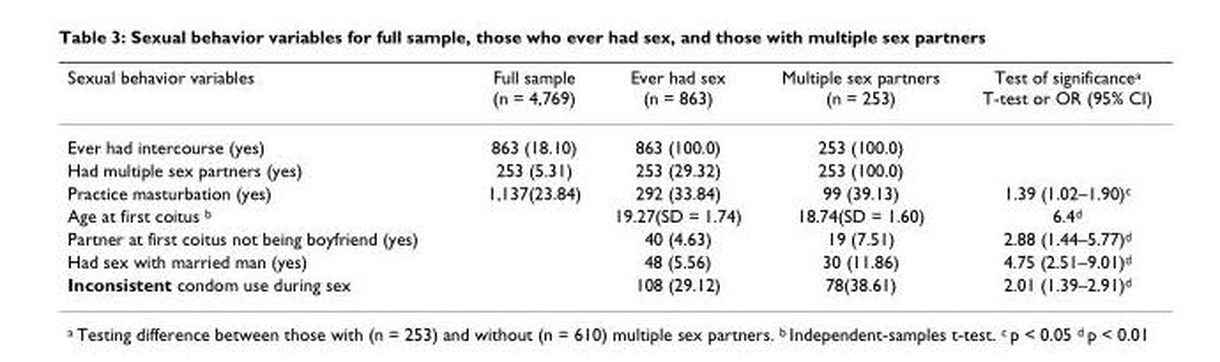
<table><thead><tr><td>Sexual behavior variables</td><td>Full sample (n = 4,769)</td><td>Ever had sex (n = 863)</td><td>Multiple sex partners (n = 253)</td><td>Test of significance<sup>a</sup> T-test or OR (95% CI)</td></tr></thead><tbody><tr><td>Ever had intercourse (yes)</td><td>863 (18.10)</td><td>863 (100.0)</td><td>253 (100.0)</td><td></td></tr><tr><td>Had multiple sex partners (yes)</td><td>253 (5.31)</td><td>253 (29.32)</td><td>253 (100.0)</td><td></td></tr><tr><td>Practice masturbation (yes)</td><td>1,137(23.84)</td><td>292 (33.84)</td><td>99 (39.13)</td><td>1.39 (1.02–1.90)<sup>c</sup></td></tr><tr><td>Age at first coitus <sup>b</sup></td><td></td><td>19.27(SD = 1.74)</td><td>18.74(SD = 1.60)</td><td>6.4<sup>d</sup></td></tr><tr><td>Partner at first coitus not being boyfriend (yes)</td><td></td><td>40 (4.63)</td><td>19 (7.51)</td><td>2.88 (1.44–5.77)<sup>d</sup></td></tr><tr><td>Had sex with married man (yes)</td><td></td><td>48 (5.56)</td><td>30 (11.86)</td><td>4.75 (2.51–9.01)<sup>d</sup></td></tr><tr><td>Inconsistent condom use during sex</td><td></td><td>108 (29.12)</td><td>78(38.61)</td><td>2.01 (1.39–2.91)<sup>d</sup></td></tr></tbody></table>